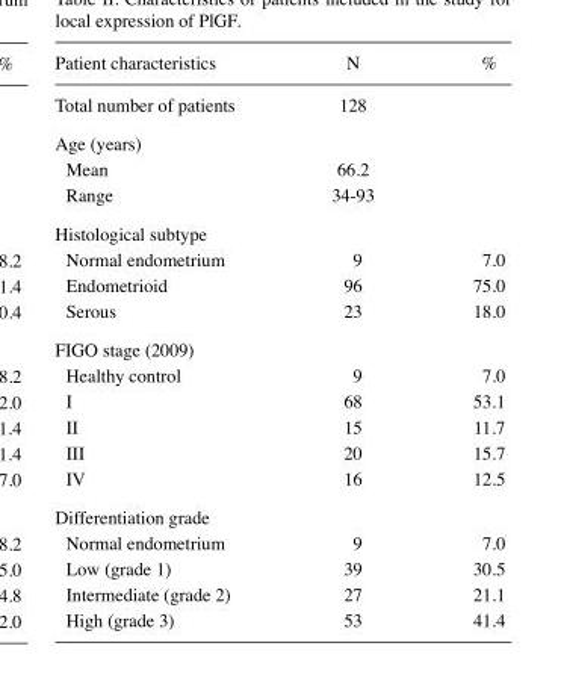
<table><thead><tr><td>Patient characteristics</td><td>N</td><td>%</td></tr></thead><tbody><tr><td>Total number of patients</td><td>128</td><td></td></tr><tr><td colspan="3">Age (years)</td></tr><tr><td>Mean</td><td>66.2</td><td></td></tr><tr><td>Range</td><td>34-93</td><td></td></tr><tr><td colspan="3">Histological subtype</td></tr><tr><td>Normal endometrium</td><td>9</td><td>7.0</td></tr><tr><td>Endometrioid</td><td>96</td><td>75.0</td></tr><tr><td>Serous</td><td>23</td><td>18.0</td></tr><tr><td colspan="3">FIGO stage (2009)</td></tr><tr><td>Healthy control</td><td>9</td><td>7.0</td></tr><tr><td>I</td><td>68</td><td>53.1</td></tr><tr><td>II</td><td>15</td><td>11.7</td></tr><tr><td>III</td><td>20</td><td>15.7</td></tr><tr><td>IV</td><td>16</td><td>12.5</td></tr><tr><td colspan="3">Differentiation grade</td></tr><tr><td>Normal endometrium</td><td>9</td><td>7.0</td></tr><tr><td>Low (grade 1)</td><td>39</td><td>30.5</td></tr><tr><td>Intermediate (grade 2)</td><td>27</td><td>21.1</td></tr><tr><td>High (grade 3)</td><td>53</td><td>41.4</td></tr></tbody></table>